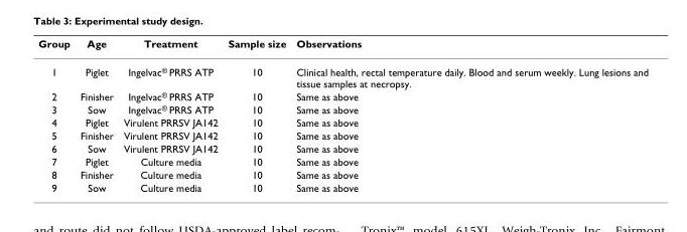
<table><thead><tr><td>Group</td><td>Age</td><td>Treatment</td><td>Sample size</td><td>Observations</td></tr></thead><tbody><tr><td>1</td><td>Piglet</td><td>Ingelvac<sup>®</sup> PRRS ATP</td><td>10</td><td>Clinical health, rectal temperature daily. Blood and serum weekly. Lung lesions and tissue samples at necropsy.</td></tr><tr><td>2</td><td>Finisher</td><td>Ingelvac<sup>®</sup> PRRS ATP</td><td>10</td><td>Same as above</td></tr><tr><td>3</td><td>Sow</td><td>Ingelvac<sup>®</sup> PRRS ATP</td><td>10</td><td>Same as above</td></tr><tr><td>4</td><td>Piglet</td><td>Virulent PRRSV JA142</td><td>10</td><td>Same as above</td></tr><tr><td>5</td><td>Finisher</td><td>Virulent PRRSV JA142</td><td>10</td><td>Same as above</td></tr><tr><td>6</td><td>Sow</td><td>Virulent PRRSV JA142</td><td>10</td><td>Same as above</td></tr><tr><td>7</td><td>Piglet</td><td>Culture media</td><td>10</td><td>Same as above</td></tr><tr><td>8</td><td>Finisher</td><td>Culture media</td><td>10</td><td>Same as above</td></tr><tr><td>9</td><td>Sow</td><td>Culture media</td><td>10</td><td>Same as above</td></tr></tbody></table>